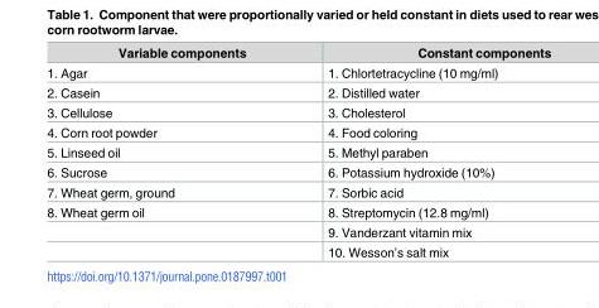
<table><thead><tr><td>Variable components</td><td>Constant components</td></tr></thead><tbody><tr><td>1. Agar</td><td>1. Chlortetracycline (10 mg/ml)</td></tr><tr><td>2. Casein</td><td>2. Distilled water</td></tr><tr><td>3. Cellulose</td><td>3. Cholesterol</td></tr><tr><td>4. Corn root powder</td><td>4. Food coloring</td></tr><tr><td>5. Linseed oil</td><td>5. Methyl paraben</td></tr><tr><td>6. Sucrose</td><td>6. Potassium hydroxide (10%)</td></tr><tr><td>7. Wheat germ, ground</td><td>7. Sorbic acid</td></tr><tr><td rowspan="3">8. Wheat germ oil</td><td>8. Streptomycin (12.8 mg/ml)</td></tr><tr><td>9. Vanderzant vitamin mix</td></tr><tr><td>10. Wesson’s salt mix</td></tr></tbody></table>